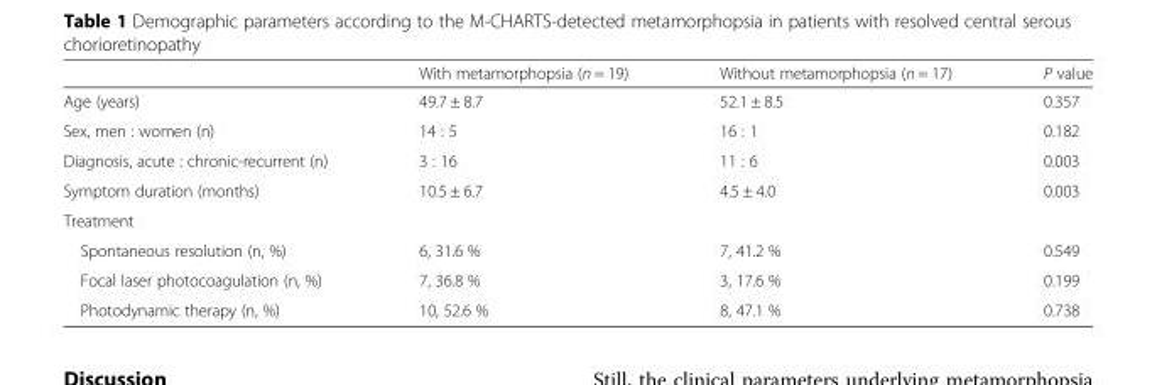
<table><thead><tr><td></td><td>With metamorphopsia (n = 19)</td><td>Without metamorphopsia (n = 17)</td><td>P value</td></tr></thead><tbody><tr><td>Age (years)</td><td>49.7 ± 8.7</td><td>52.1 ± 8.5</td><td>0.357</td></tr><tr><td>Sex, men : women (n)</td><td>14 : 5</td><td>16 : 1</td><td>0.182</td></tr><tr><td>Diagnosis, acute : chronic-recurrent (n)</td><td>3 : 16</td><td>11 : 6</td><td>0.003</td></tr><tr><td>Symptom duration (months)</td><td>10.5 ± 6.7</td><td>4.5 ± 4.0</td><td>0.003</td></tr><tr><td colspan="4">Treatment</td></tr><tr><td>Spontaneous resolution (n, %)</td><td>6, 31.6 %</td><td>7, 41.2 %</td><td>0.549</td></tr><tr><td>Focal laser photocoagulation (n, %)</td><td>7, 36.8 %</td><td>3, 17.6 %</td><td>0.199</td></tr><tr><td>Photodynamic therapy (n, %)</td><td>10, 52.6 %</td><td>8, 47.1 %</td><td>0.738</td></tr></tbody></table>